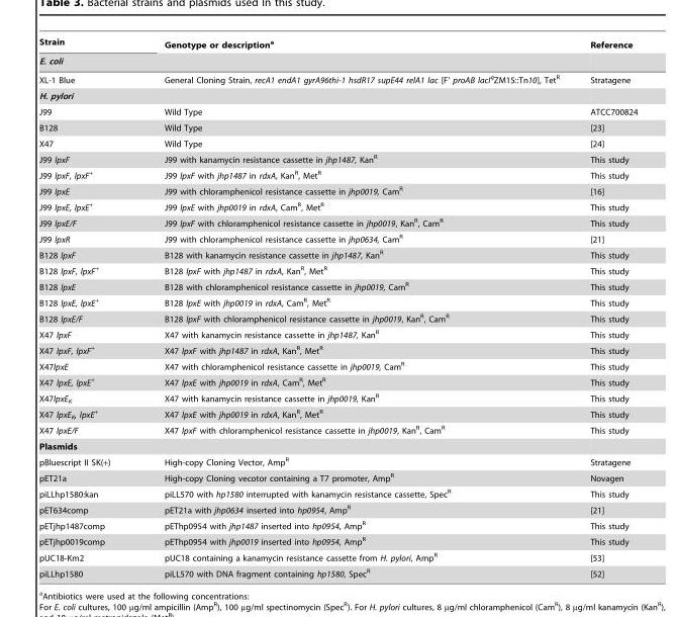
<table><thead><tr><td rowspan="2">Strain E. coli</td><td rowspan="2">Genotype or description<sup>a</sup></td><td rowspan="2">Reference</td></tr><tr></tr></thead><tbody><tr><td>XL-1 Blue</td><td>General Cloning Strain, recA1 endA1 gyrA96thi-1 hsdR17 supE44 relA1 lac [F’ proAB lacI<sup>q</sup>ZM15::Tn10], Tet<sup>R</sup></td><td>Stratagene</td></tr><tr><td colspan="3">H. pylori</td></tr><tr><td>J99</td><td>Wild Type</td><td>ATCC700824</td></tr><tr><td>B128</td><td>Wild Type</td><td>[23]</td></tr><tr><td>X47</td><td>Wild Type</td><td>[24]</td></tr><tr><td>J99 lpxF</td><td>J99 with kanamycin resistance cassette in jhp1487, Kan<sup>R</sup></td><td>This study</td></tr><tr><td>J99 lpxF, lpxF<sup>+</sup></td><td>J99 lpxF with jhp1487 in rdxA, Kan<sup>R</sup>, Met<sup>R</sup></td><td>This study</td></tr><tr><td>J99 lpxE</td><td>J99 with chloramphenicol resistance cassette in jhp0019, Cam<sup>R</sup></td><td>[16]</td></tr><tr><td>J99 lpxE, lpxE<sup>+</sup></td><td>J99 lpxE with jhp0019 in rdxA, Cam<sup>R</sup>, Met<sup>R</sup></td><td>This study</td></tr><tr><td>J99 lpxE/F</td><td>J99 lpxF with chloramphenicol resistance cassette in jhp0019, Kan<sup>R</sup>, Cam<sup>R</sup></td><td>This study</td></tr><tr><td>J99 lpxR</td><td>J99 with chloramphenicol resistance cassette in jhp0634, Cam<sup>R</sup></td><td>[21]</td></tr><tr><td>B128 lpxF</td><td>B128 with kanamycin resistance cassette in jhp1487, Kan<sup>R</sup></td><td>This study</td></tr><tr><td>B128 lpxF, lpxF<sup>+</sup></td><td>B128 lpxF with jhp1487 in rdxA, Kan<sup>R</sup>, Met<sup>R</sup></td><td>This study</td></tr><tr><td>B128 lpxE</td><td>B128 with chloramphenicol resistance cassette in jhp0019, Cam<sup>R</sup></td><td>This study</td></tr><tr><td>B128 lpxE, lpxE<sup>+</sup></td><td>B128 lpxE with jhp0019 in rdxA, Cam<sup>R</sup>, Met<sup>R</sup></td><td>This study</td></tr><tr><td>B128 lpxE/F</td><td>B128 lpxF with chloramphenicol resistance cassette in jhp0019, Kan<sup>R</sup>, Cam<sup>R</sup></td><td>This study</td></tr><tr><td>X47 lpxF</td><td>X47 with kanamycin resistance cassette in jhp1487, Kan<sup>R</sup></td><td>This study</td></tr><tr><td>X47 lpxF, lpxF<sup>+</sup></td><td>X47 lpxF with jhp1487 in rdxA, Kan<sup>R</sup>, Met<sup>R</sup></td><td>This study</td></tr><tr><td>X47lpxE</td><td>X47 with chloramphenicol resistance cassette in jhp0019, Cam<sup>R</sup></td><td>This study</td></tr><tr><td>X47 lpxE, lpxE<sup>+</sup></td><td>X47 lpxE with jhp0019 in rdxA, Cam<sup>R</sup>, Met<sup>R</sup></td><td>This study</td></tr><tr><td>X47lpxE<sub>K</sub></td><td>X47 with kanamycin resistance cassette in jhp0019, Kan<sup>R</sup></td><td>This study</td></tr><tr><td>X47 lpxE<sub>K</sub>, lpxE<sup>+</sup></td><td>X47 lpxE with jhp0019 in rdxA, Kan<sup>R</sup>, Met<sup>R</sup></td><td>This study</td></tr><tr><td>X47 lpxE/F</td><td>X47 lpxF with chloramphenicol resistance cassette in jhp0019, Kan<sup>R</sup>, Cam<sup>R</sup></td><td>This study</td></tr><tr><td colspan="3">Plasmids</td></tr><tr><td>pBluescript II SK(+)</td><td>High-copy Cloning Vector, Amp<sup>R</sup></td><td>Stratagene</td></tr><tr><td>pET21a</td><td>High-copy Cloning vecotor containing a T7 promoter, Amp<sup>R</sup></td><td>Novagen</td></tr><tr><td>piLLhp1580:kan</td><td>piLL570 with hp1580 interrupted with kanamycin resistance cassette, Spec<sup>R</sup></td><td>This study</td></tr><tr><td>pET634comp</td><td>pET21a with jhp0634 inserted into hp0954, Amp<sup>R</sup></td><td>[21]</td></tr><tr><td>pETjhp1487comp</td><td>pEThp0954 with jhp1487 inserted into hp0954, Amp<sup>R</sup></td><td>This study</td></tr><tr><td>pETjhp0019comp</td><td>pEThp0954 with jhp0019 inserted into hp0954, Amp<sup>R</sup></td><td>This study</td></tr><tr><td>pUC18-Km2</td><td>pUC18 containing a kanamycin resistance cassette from H. pylori, Amp<sup>R</sup></td><td>[53]</td></tr><tr><td>piLLhp1580</td><td>piLL570 with DNA fragment containing hp1580, Spec<sup>R</sup></td><td>[52]</td></tr></tbody></table>